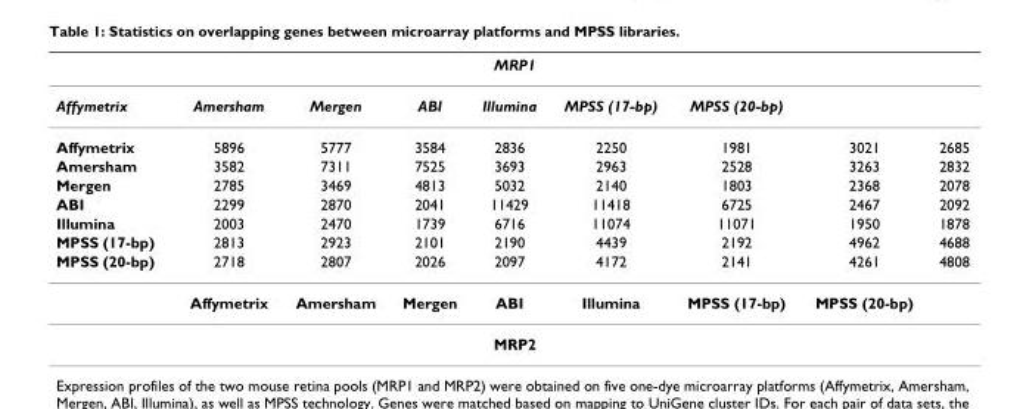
<table><thead><tr><td colspan="9">MRP1</td></tr><tr><td>Affymetrix</td><td>Amersham</td><td>Mergen</td><td>ABI</td><td>Illumina</td><td>MPSS (17-bp)</td><td>MPSS (20-bp)</td><td></td><td></td></tr></thead><tbody><tr><td>Affymetrix</td><td>5896</td><td>5777</td><td>3584</td><td>2836</td><td>2250</td><td>1981</td><td>3021</td><td>2685</td></tr><tr><td>Amersham</td><td>3582</td><td>7311</td><td>7525</td><td>3693</td><td>2963</td><td>2528</td><td>3263</td><td>2832</td></tr><tr><td>Mergen</td><td>2785</td><td>3469</td><td>4813</td><td>5032</td><td>2140</td><td>1803</td><td>2368</td><td>2078</td></tr><tr><td>ABI</td><td>2299</td><td>2870</td><td>2041</td><td>11429</td><td>11418</td><td>6725</td><td>2467</td><td>2092</td></tr><tr><td>Illumina</td><td>2003</td><td>2470</td><td>1739</td><td>6716</td><td>11074</td><td>11071</td><td>1950</td><td>1878</td></tr><tr><td>MPSS (17-bp)</td><td>2813</td><td>2923</td><td>2101</td><td>2190</td><td>4439</td><td>2192</td><td>4962</td><td>4688</td></tr><tr><td rowspan="2">MPSS (20-bp)</td><td>2718</td><td>2807</td><td>2026</td><td>2097</td><td>4172</td><td>2141</td><td>4261</td><td>4808</td></tr><tr><td>Affymetrix</td><td>Amersham</td><td>Mergen</td><td>ABI</td><td>Illumina</td><td>MPSS (17-bp)</td><td>MPSS (20-bp)</td><td></td></tr><tr><td colspan="9">MRP2</td></tr></tbody></table>